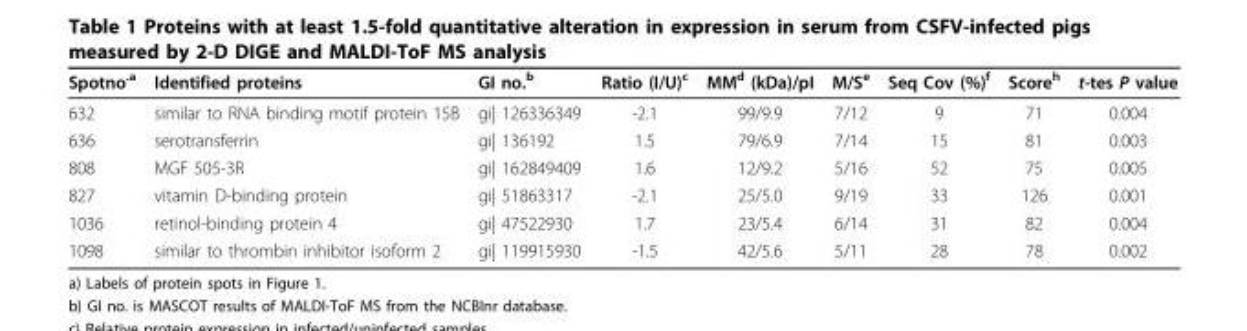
<table><thead><tr><td>Spotno<sup>.a</sup></td><td>Identified proteins</td><td>GI no.<sup>b</sup></td><td>Ratio (I/U)<sup>c</sup></td><td>MM<sup>d</sup> (kDa)/pI</td><td>M/S<sup>e</sup></td><td>Seq Cov (%)<sup>f</sup></td><td>Score<sup>h</sup></td><td>t-tes P value</td></tr></thead><tbody><tr><td>632</td><td>similar to RNA binding motif protein 15B</td><td>gi| 126336349</td><td>-2.1</td><td>99/9.9</td><td>7/12</td><td>9</td><td>71</td><td>0.004</td></tr><tr><td>636</td><td>serotransferrin</td><td>gi| 136192</td><td>1.5</td><td>79/6.9</td><td>7/14</td><td>15</td><td>81</td><td>0.003</td></tr><tr><td>808</td><td>MGF 505-3R</td><td>gi| 162849409</td><td>1.6</td><td>12/9.2</td><td>5/16</td><td>52</td><td>75</td><td>0.005</td></tr><tr><td>827</td><td>vitamin D-binding protein</td><td>gi| 51863317</td><td>-2.1</td><td>25/5.0</td><td>9/19</td><td>33</td><td>126</td><td>0.001</td></tr><tr><td>1036</td><td>retinol-binding protein 4</td><td>gi| 47522930</td><td>1.7</td><td>23/5.4</td><td>6/14</td><td>31</td><td>82</td><td>0.004</td></tr><tr><td>1098</td><td>similar to thrombin inhibitor isoform 2</td><td>gi| 119915930</td><td>-1.5</td><td>42/5.6</td><td>5/11</td><td>28</td><td>78</td><td>0.002</td></tr></tbody></table>